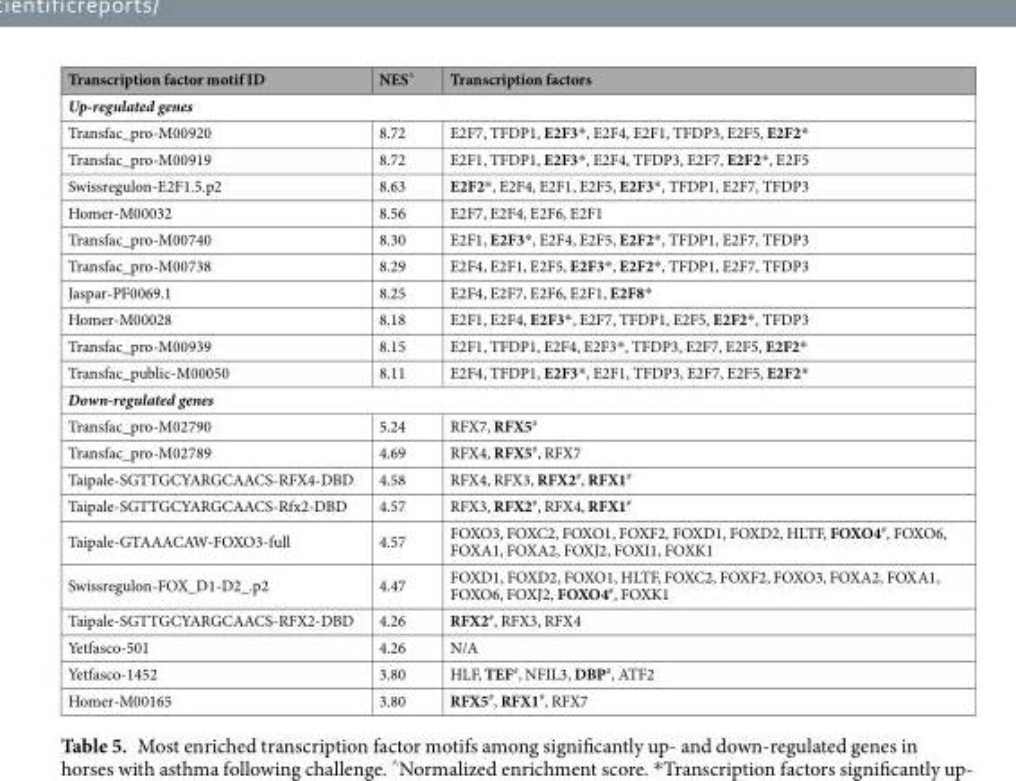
<table><thead><tr><td>Transcription factor motif ID</td><td>NES<sup>^</sup></td><td>Transcription factors</td></tr></thead><tbody><tr><td colspan="3">Up-regulated genes</td></tr><tr><td>Transfac_pro-M00920</td><td>8.72</td><td>E2F7, TFDP1, E2F3*, E2F4, E2F1, TFDP3, E2F5, E2F2*</td></tr><tr><td>Transfac_pro-M00919</td><td>8.72</td><td>E2F1, TFDP1, E2F3*, E2F4, TFDP3, E2F7, E2F2*, E2F5</td></tr><tr><td>Swissregulon-E2F1.5.p2</td><td>8.63</td><td>E2F2*, E2F4, E2F1, E2F5, E2F3*, TFDP1, E2F7, TFDP3</td></tr><tr><td>Homer-M00032</td><td>8.56</td><td>E2F7, E2F4, E2F6, E2F1</td></tr><tr><td>Transfac_pro-M00740</td><td>8.30</td><td>E2F1, E2F3*, E2F4, E2F5, E2F2*, TFDP1, E2F7, TFDP3</td></tr><tr><td>Transfac_pro-M00738</td><td>8.29</td><td>E2F4, E2F1, E2F5, E2F3*, E2F2*, TFDP1, E2F7, TFDP3</td></tr><tr><td>Jaspar-PF0069.1</td><td>8.25</td><td>E2F4, E2F7, E2F6, E2F1, E2F8*</td></tr><tr><td>Homer-M00028</td><td>8.18</td><td>E2F1, E2F4, E2F3*, E2F7, TFDP1, E2F5, E2F2*, TFDP3</td></tr><tr><td>Transfac_pro-M00939</td><td>8.15</td><td>E2F1, TFDP1, E2F4, E2F3*, TFDP3, E2F7, E2F5, E2F2*</td></tr><tr><td>Transfac_public-M00050</td><td>8.11</td><td>E2F4, TFDP1, E2F3*, E2F1, TFDP3, E2F7, E2F5, E2F2*</td></tr><tr><td colspan="3">Down-regulated genes</td></tr><tr><td>Transfac_pro-M02790</td><td>5.24</td><td>RFX7, RFX5<sup>#</sup></td></tr><tr><td>Transfac_pro-M02789</td><td>4.69</td><td>RFX4, RFX5<sup>#</sup>, RFX7</td></tr><tr><td>Taipale-SGTTGCYARGCAACS-RFX4-DBD</td><td>4.58</td><td>RFX4, RFX3, RFX2<sup>#</sup>, RFX1<sup>#</sup></td></tr><tr><td>Taipale-SGTTGCYARGCAACS-Rfx2-DBD</td><td>4.57</td><td>RFX3, RFX2<sup>#</sup>, RFX4, RFX1<sup>#</sup></td></tr><tr><td>Taipale-GTAAACAW-FOXO3-full</td><td>4.57</td><td>FOXO3, FOXC2, FOXO1, FOXF2, FOXD1, FOXD2, HLTF, FOXO4<sup>#</sup>, FOXO6, FOXA1, FOXA2, FOXJ2, FOXI1, FOXK1</td></tr><tr><td>Swissregulon-FOX_D1-D2_.p2</td><td>4.47</td><td>FOXD1, FOXD2, FOXO1, HLTF, FOXC2, FOXF2, FOXO3, FOXA2, FOXA1, FOXO6, FOXJ2, FOXO4<sup>#</sup>, FOXK1</td></tr><tr><td>Taipale-SGTTGCYARGCAACS-RFX2-DBD</td><td>4.26</td><td>RFX2<sup>#</sup>, RFX3, RFX4</td></tr><tr><td>Yetfasco-501</td><td>4.26</td><td>N/A</td></tr><tr><td>Yetfasco-1452</td><td>3.80</td><td>HLF, TEF<sup>#</sup>, NFIL3, DBP<sup>#</sup>, ATF2</td></tr><tr><td>Homer-M00165</td><td>3.80</td><td>RFX5<sup>#</sup>, RFX1<sup>#</sup>, RFX7</td></tr></tbody></table>